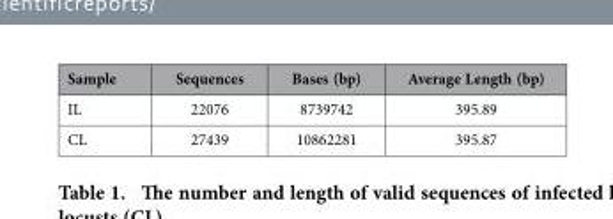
<table><thead><tr><td>Sample</td><td>Sequences</td><td>Bases (bp)</td><td>Average Length (bp)</td></tr></thead><tbody><tr><td>IL</td><td>22076</td><td>8739742</td><td>395.89</td></tr><tr><td>CL</td><td>27439</td><td>10862281</td><td>395.87</td></tr></tbody></table>